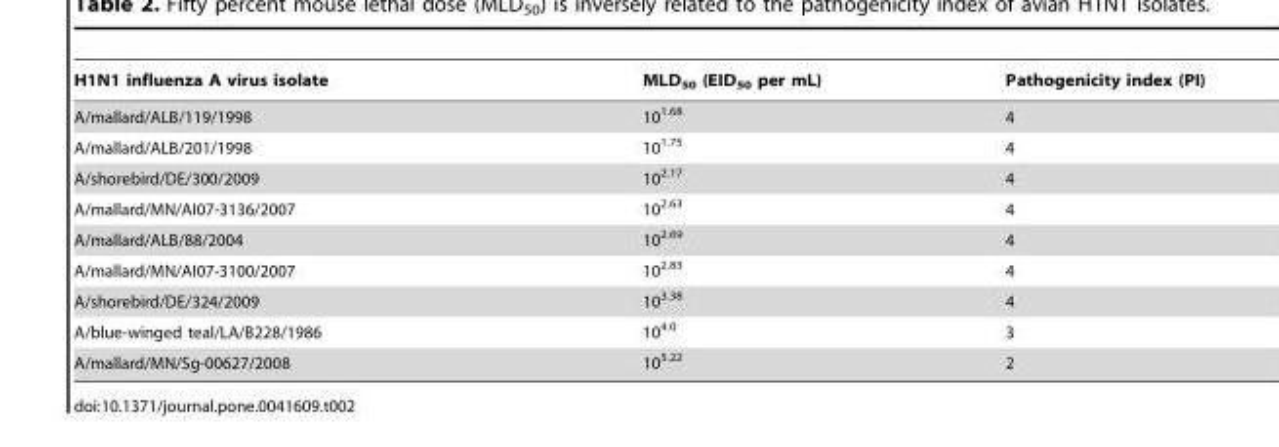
<table><thead><tr><td>H1N1 influenza A virus isolate</td><td>MLD<sub>50</sub> (EID<sub>50</sub> per mL)</td><td>Pathogenicity index (PI)</td></tr></thead><tbody><tr><td>A/mallard/ALB/119/1998</td><td>10<sup>1.68</sup></td><td>4</td></tr><tr><td>A/mallard/ALB/201/1998</td><td>10<sup>1.75</sup></td><td>4</td></tr><tr><td>A/shorebird/DE/300/2009</td><td>10<sup>2.17</sup></td><td>4</td></tr><tr><td>A/mallard/MN/AI07-3136/2007</td><td>10<sup>2.63</sup></td><td>4</td></tr><tr><td>A/mallard/ALB/88/2004</td><td>10<sup>2.69</sup></td><td>4</td></tr><tr><td>A/mallard/MN/AI07-3100/2007</td><td>10<sup>2.83</sup></td><td>4</td></tr><tr><td>A/shorebird/DE/324/2009</td><td>10<sup>3.38</sup></td><td>4</td></tr><tr><td>A/blue-winged teal/LA/B228/1986</td><td>10<sup>4.0</sup></td><td>3</td></tr><tr><td>A/mallard/MN/Sg-00627/2008</td><td>10<sup>5.22</sup></td><td>2</td></tr></tbody></table>